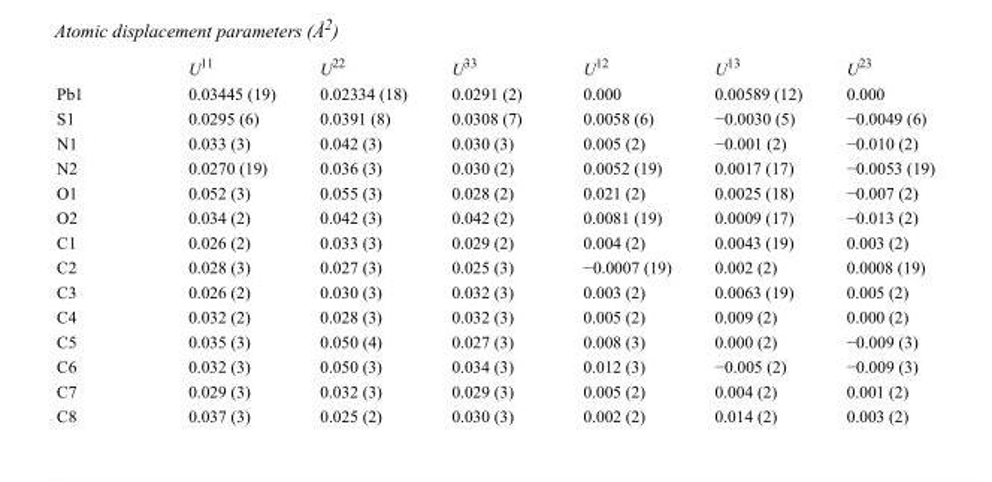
<table><thead><tr><td></td><td>U<sup>11</sup></td><td>U<sup>22</sup></td><td>U<sup>33</sup></td><td>U<sup>12</sup></td><td>U<sup>13</sup></td><td>U<sup>23</sup></td></tr></thead><tbody><tr><td>Pb1</td><td>0.03445 (19)</td><td>0.02334 (18)</td><td>0.0291 (2)</td><td>0.000</td><td>0.00589 (12)</td><td>0.000</td></tr><tr><td>S1</td><td>0.0295 (6)</td><td>0.0391 (8)</td><td>0.0308 (7)</td><td>0.0058 (6)</td><td>−0.0030 (5)</td><td>−0.0049 (6)</td></tr><tr><td>N1</td><td>0.033 (3)</td><td>0.042 (3)</td><td>0.030 (3)</td><td>0.005 (2)</td><td>−0.001 (2)</td><td>−0.010 (2)</td></tr><tr><td>N2</td><td>0.0270 (19)</td><td>0.036 (3)</td><td>0.030 (2)</td><td>0.0052 (19)</td><td>0.0017 (17)</td><td>−0.0053 (19)</td></tr><tr><td>O1</td><td>0.052 (3)</td><td>0.055 (3)</td><td>0.028 (2)</td><td>0.021 (2)</td><td>0.0025 (18)</td><td>−0.007 (2)</td></tr><tr><td>O2</td><td>0.034 (2)</td><td>0.042 (3)</td><td>0.042 (2)</td><td>0.0081 (19)</td><td>0.0009 (17)</td><td>−0.013 (2)</td></tr><tr><td>C1</td><td>0.026 (2)</td><td>0.033 (3)</td><td>0.029 (2)</td><td>0.004 (2)</td><td>0.0043 (19)</td><td>0.003 (2)</td></tr><tr><td>C2</td><td>0.028 (3)</td><td>0.027 (3)</td><td>0.025 (3)</td><td>−0.0007 (19)</td><td>0.002 (2)</td><td>0.0008 (19)</td></tr><tr><td>C3</td><td>0.026 (2)</td><td>0.030 (3)</td><td>0.032 (3)</td><td>0.003 (2)</td><td>0.0063 (19)</td><td>0.005 (2)</td></tr><tr><td>C4</td><td>0.032 (2)</td><td>0.028 (3)</td><td>0.032 (3)</td><td>0.005 (2)</td><td>0.009 (2)</td><td>0.000 (2)</td></tr><tr><td>C5</td><td>0.035 (3)</td><td>0.050 (4)</td><td>0.027 (3)</td><td>0.008 (3)</td><td>0.000 (2)</td><td>−0.009 (3)</td></tr><tr><td>C6</td><td>0.032 (3)</td><td>0.050 (3)</td><td>0.034 (3)</td><td>0.012 (3)</td><td>−0.005 (2)</td><td>−0.009 (3)</td></tr><tr><td>C7</td><td>0.029 (3)</td><td>0.032 (3)</td><td>0.029 (3)</td><td>0.005 (2)</td><td>0.004 (2)</td><td>0.001 (2)</td></tr><tr><td>C8</td><td>0.037 (3)</td><td>0.025 (2)</td><td>0.030 (3)</td><td>0.002 (2)</td><td>0.014 (2)</td><td>0.003 (2)</td></tr></tbody></table>